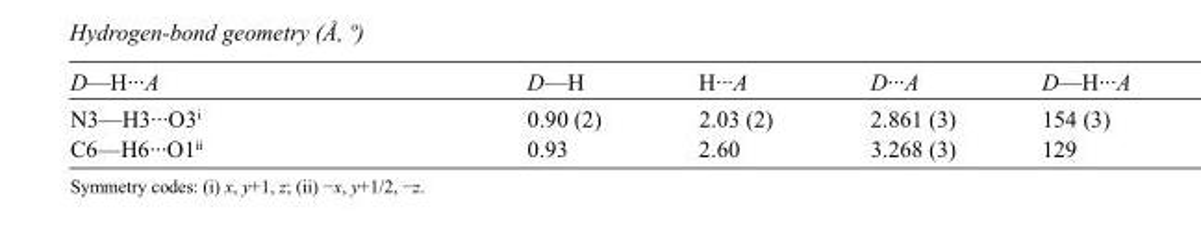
<table><tbody><tr><td>D—H···A</td><td>D—H</td><td>H···A</td><td>D···A</td><td>D—H···A</td></tr><tr><td>N3—H3···O3<sup>i</sup></td><td>0.90 (2)</td><td>2.03 (2)</td><td>2.861 (3)</td><td>154 (3)</td></tr><tr><td>C6—H6···O1<sup>ii</sup></td><td>0.93</td><td>2.60</td><td>3.268 (3)</td><td>129</td></tr></tbody></table>